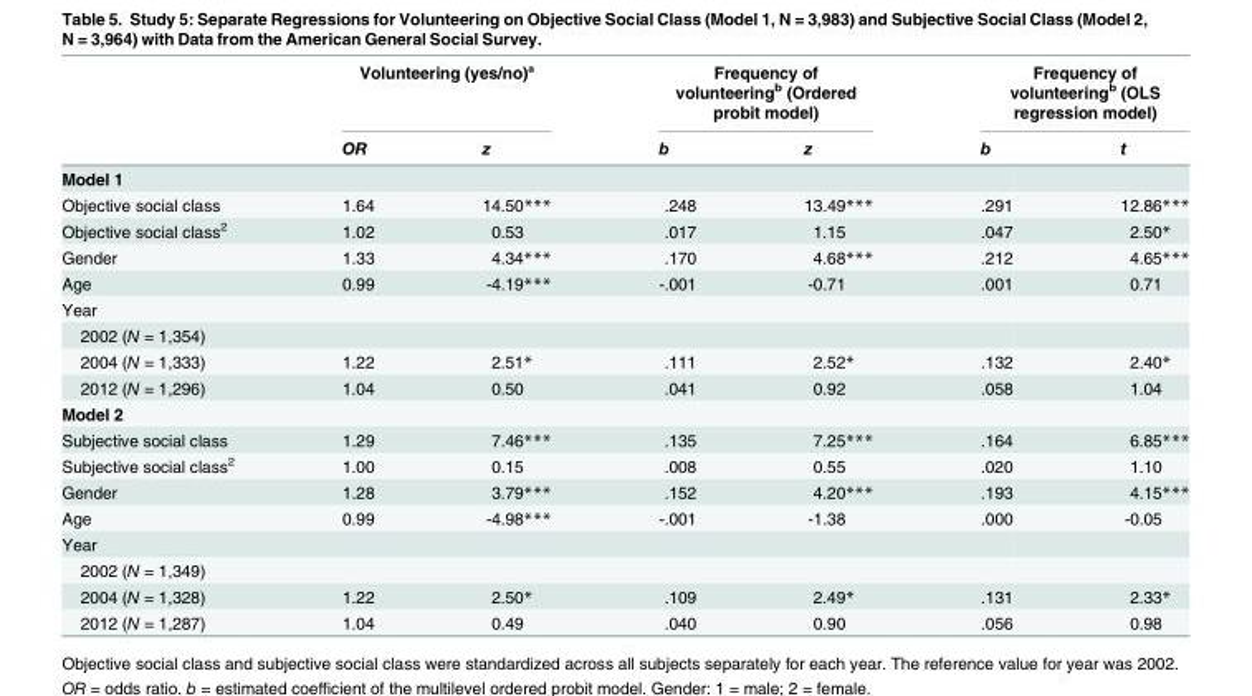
<table><thead><tr><td rowspan="2"></td><td colspan="2">Volunteering (yes/no)ª</td><td colspan="2">Frequency of volunteering<sup>b</sup> (Ordered probit model)</td><td colspan="2">Frequency of volunteering<sup>b</sup> (OLS regression model)</td></tr><tr><td>OR</td><td>z</td><td>b</td><td>z</td><td>b</td><td>t</td></tr></thead><tbody><tr><td colspan="7">Model 1</td></tr><tr><td>Objective social class</td><td>1.64</td><td>14.50***</td><td>.248</td><td>13.49***</td><td>.291</td><td>12.86***</td></tr><tr><td>Objective social class<sup>2</sup></td><td>1.02</td><td>0.53</td><td>.017</td><td>1.15</td><td>.047</td><td>2.50*</td></tr><tr><td>Gender</td><td>1.33</td><td>4.34***</td><td>.170</td><td>4.68***</td><td>.212</td><td>4.65***</td></tr><tr><td>Age</td><td>0.99</td><td>-4.19***</td><td>-.001</td><td>-0.71</td><td>.001</td><td>0.71</td></tr><tr><td colspan="7">Year</td></tr><tr><td colspan="7">2002 (N = 1,354)</td></tr><tr><td>2004 (N = 1,333)</td><td>1.22</td><td>2.51*</td><td>.111</td><td>2.52*</td><td>.132</td><td>2.40*</td></tr><tr><td>2012 (N = 1,296)</td><td>1.04</td><td>0.50</td><td>.041</td><td>0.92</td><td>.058</td><td>1.04</td></tr><tr><td colspan="7">Model 2</td></tr><tr><td>Subjective social class</td><td>1.29</td><td>7.46***</td><td>.135</td><td>7.25***</td><td>.164</td><td>6.85***</td></tr><tr><td>Subjective social class<sup>2</sup></td><td>1.00</td><td>0.15</td><td>.008</td><td>0.55</td><td>.020</td><td>1.10</td></tr><tr><td>Gender</td><td>1.28</td><td>3.79***</td><td>.152</td><td>4.20***</td><td>.193</td><td>4.15***</td></tr><tr><td>Age</td><td>0.99</td><td>-4.98***</td><td>-.001</td><td>-1.38</td><td>.000</td><td>-0.05</td></tr><tr><td colspan="7">Year</td></tr><tr><td colspan="7">2002 (N = 1,349)</td></tr><tr><td>2004 (N = 1,328)</td><td>1.22</td><td>2.50*</td><td>.109</td><td>2.49*</td><td>.131</td><td>2.33*</td></tr><tr><td>2012 (N = 1,287)</td><td>1.04</td><td>0.49</td><td>.040</td><td>0.90</td><td>.056</td><td>0.98</td></tr></tbody></table>